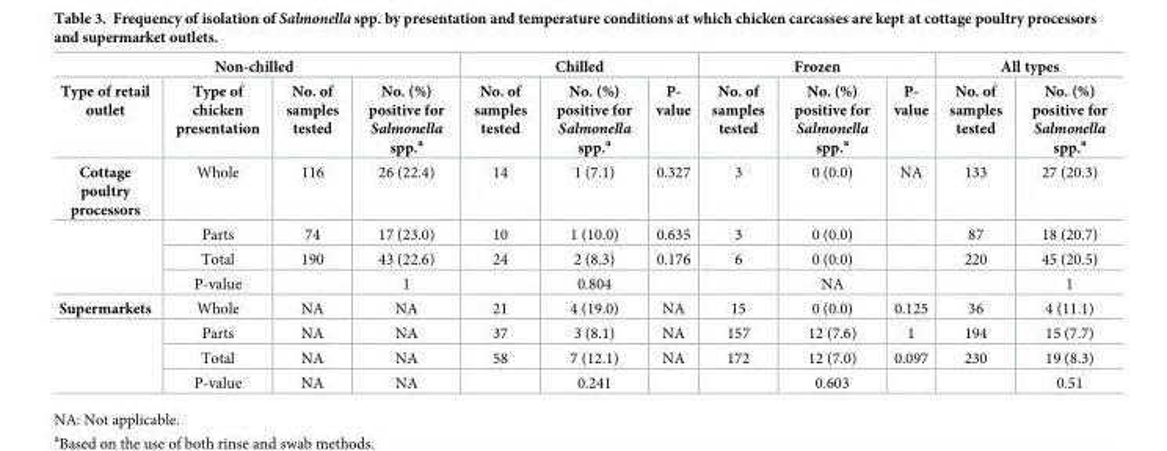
<table><thead><tr><td colspan="4">Non-chilled</td><td colspan="3">Chilled</td><td colspan="3">Frozen</td><td colspan="2">All types</td></tr><tr><td>Type of retail outlet</td><td>Type of chicken presentation</td><td>No. of samples tested</td><td>No. (%) positive for Salmonella spp.<sup>a</sup></td><td>No. of samples tested</td><td>No. (%) positive for Salmonella spp.<sup>a</sup></td><td>P- value</td><td>No. of samples tested</td><td>No. (%) positive for Salmonella spp.<sup>a</sup></td><td>P- value</td><td>No. of samples tested</td><td>No. (%) positive for Salmonella spp.<sup>a</sup></td></tr></thead><tbody><tr><td rowspan="4">Cottage poultry processors</td><td>Whole</td><td>116</td><td>26 (22.4)</td><td>14</td><td>1 (7.1)</td><td>0.327</td><td>3</td><td>0 (0.0)</td><td>NA</td><td>133</td><td>27 (20.3)</td></tr><tr><td>Parts</td><td>74</td><td>17 (23.0)</td><td>10</td><td>1 (10.0)</td><td>0.635</td><td>3</td><td>0 (0.0)</td><td></td><td>87</td><td>18 (20.7)</td></tr><tr><td>Total</td><td>190</td><td>43 (22.6)</td><td>24</td><td>2 (8.3)</td><td>0.176</td><td>6</td><td>0 (0.0)</td><td></td><td>220</td><td>45 (20.5)</td></tr><tr><td>P-value</td><td></td><td>1</td><td></td><td>0.804</td><td></td><td></td><td>NA</td><td></td><td></td><td>1</td></tr><tr><td rowspan="4">Supermarkets</td><td>Whole</td><td>NA</td><td>NA</td><td>21</td><td>4 (19.0)</td><td>NA</td><td>15</td><td>0 (0.0)</td><td>0.125</td><td>36</td><td>4 (11.1)</td></tr><tr><td>Parts</td><td>NA</td><td>NA</td><td>37</td><td>3 (8.1)</td><td>NA</td><td>157</td><td>12 (7.6)</td><td>1</td><td>194</td><td>15 (7.7)</td></tr><tr><td>Total</td><td>NA</td><td>NA</td><td>58</td><td>7 (12.1)</td><td>NA</td><td>172</td><td>12 (7.0)</td><td>0.097</td><td>230</td><td>19 (8.3)</td></tr><tr><td>P-value</td><td>NA</td><td>NA</td><td></td><td>0.241</td><td></td><td></td><td>0.603</td><td></td><td></td><td>0.51</td></tr></tbody></table>